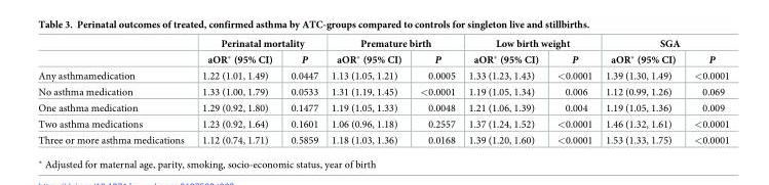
<table><thead><tr><td rowspan="2"></td><td colspan="2">Perinatal mortality</td><td colspan="2">Premature birth</td><td colspan="2">Low birth weight</td><td colspan="2">SGA</td></tr><tr><td>aOR* (95% CI)</td><td>P</td><td>aOR* (95% CI)</td><td>P</td><td>aOR* (95% CI)</td><td>P</td><td>aOR* (95% CI)</td><td>P</td></tr></thead><tbody><tr><td>Any asthmamedication</td><td>1.22 (1.01, 1.49)</td><td>0.0447</td><td>1.13 (1.05, 1.21)</td><td>0.0005</td><td>1.33 (1.23, 1.43)</td><td>&lt;0.0001</td><td>1.39 (1.30, 1.49)</td><td>&lt;0.0001</td></tr><tr><td>No asthma medication</td><td>1.33 (1.00, 1.79)</td><td>0.0533</td><td>1.31 (1.19, 1.45)</td><td>&lt;0.0001</td><td>1.19 (1.05, 1.34)</td><td>0.006</td><td>1.12 (0.99, 1.26)</td><td>0.069</td></tr><tr><td>One asthma medication</td><td>1.29 (0.92, 1.80)</td><td>0.1477</td><td>1.19 (1.05, 1.33)</td><td>0.0048</td><td>1.21 (1.06, 1.39)</td><td>0.004</td><td>1.19 (1.05, 1.36)</td><td>0.009</td></tr><tr><td>Two asthma medications</td><td>1.23 (0.92, 1.64)</td><td>0.1601</td><td>1.06 (0.96, 1.18)</td><td>0.2557</td><td>1.37 (1.24, 1.52)</td><td>&lt;0.0001</td><td>1.46 (1.32, 1.61)</td><td>&lt;0.0001</td></tr><tr><td>Three or more asthma medications</td><td>1.12 (0.74, 1.71)</td><td>0.5859</td><td>1.18 (1.03, 1.36)</td><td>0.0168</td><td>1.39 (1.20, 1.60)</td><td>&lt;0.0001</td><td>1.53 (1.33, 1.75)</td><td>&lt;0.0001</td></tr></tbody></table>